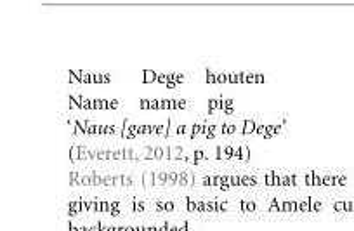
<table><tbody><tr><td>Naus</td><td>Dege</td><td>houten</td></tr><tr><td>Name</td><td>name</td><td>pig</td></tr><tr><td colspan="3">‘Naus [gave] a pig to Dege’</td></tr><tr><td colspan="3">(Everett, 2012, p. 194)</td></tr></tbody></table>